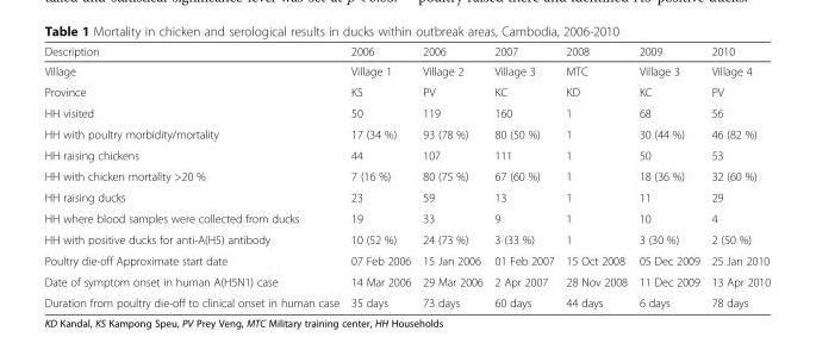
<table><thead><tr><td>Description</td><td>2006</td><td>2006</td><td>2007</td><td>2008</td><td>2009</td><td>2010</td></tr></thead><tbody><tr><td>Village</td><td>Village 1</td><td>Village 2</td><td>Village 3</td><td>MTC</td><td>Village 3</td><td>Village 4</td></tr><tr><td>Province</td><td>KS</td><td>PV</td><td>KC</td><td>KD</td><td>KC</td><td>PV</td></tr><tr><td>HH visited</td><td>50</td><td>119</td><td>160</td><td>1</td><td>68</td><td>56</td></tr><tr><td>HH with poultry morbidity/mortality</td><td>17 (34 %)</td><td>93 (78 %)</td><td>80 (50 %)</td><td>1</td><td>30 (44 %)</td><td>46 (82 %)</td></tr><tr><td>HH raising chickens</td><td>44</td><td>107</td><td>111</td><td>1</td><td>50</td><td>53</td></tr><tr><td>HH with chicken mortality &gt;20 %</td><td>7 (16 %)</td><td>80 (75 %)</td><td>67 (60 %)</td><td>1</td><td>18 (36 %)</td><td>32 (60 %)</td></tr><tr><td>HH raising ducks</td><td>23</td><td>59</td><td>13</td><td>1</td><td>11</td><td>29</td></tr><tr><td>HH where blood samples were collected from ducks</td><td>19</td><td>33</td><td>9</td><td>1</td><td>10</td><td>4</td></tr><tr><td>HH with positive ducks for anti-A(H5) antibody</td><td>10 (52 %)</td><td>24 (73 %)</td><td>3 (33 %)</td><td>1</td><td>3 (30 %)</td><td>2 (50 %)</td></tr><tr><td>Poultry die-off Approximate start date</td><td>07 Feb 2006</td><td>15 Jan 2006</td><td>01 Feb 2007</td><td>15 Oct 2008</td><td>05 Dec 2009</td><td>25 Jan 2010</td></tr><tr><td>Date of symptom onset in human A(H5N1) case</td><td>14 Mar 2006</td><td>29 Mar 2006</td><td>2 Apr 2007</td><td>28 Nov 2008</td><td>11 Dec 2009</td><td>13 Apr 2010</td></tr><tr><td>Duration from poultry die-off to clinical onset in human case</td><td>35 days</td><td>73 days</td><td>60 days</td><td>44 days</td><td>6 days</td><td>78 days</td></tr></tbody></table>